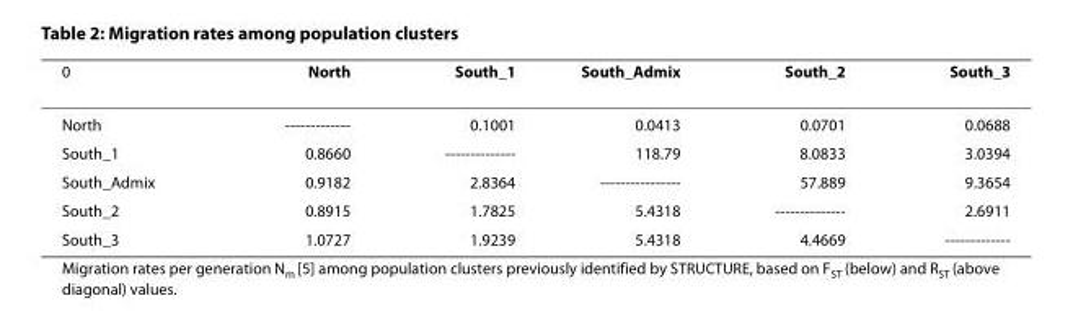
<table><thead><tr><td>0</td><td>North</td><td>South_1</td><td>South_Admix</td><td>South_2</td><td>South_3</td></tr></thead><tbody><tr><td>North</td><td>-------------</td><td>0.1001</td><td>0.0413</td><td>0.0701</td><td>0.0688</td></tr><tr><td>South_1</td><td>0.8660</td><td>--------------</td><td>118.79</td><td>8.0833</td><td>3.0394</td></tr><tr><td>South_Admix</td><td>0.9182</td><td>2.8364</td><td>----------------</td><td>57.889</td><td>9.3654</td></tr><tr><td>South_2</td><td>0.8915</td><td>1.7825</td><td>5.4318</td><td>--------------</td><td>2.6911</td></tr><tr><td>South_3</td><td>1.0727</td><td>1.9239</td><td>5.4318</td><td>4.4669</td><td>-------------</td></tr></tbody></table>